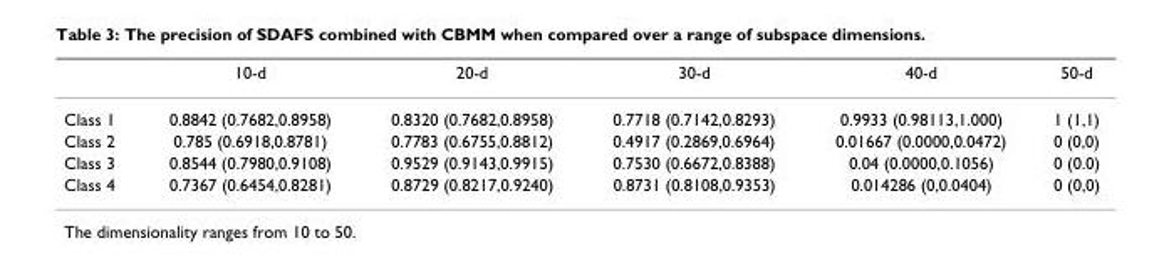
<table><thead><tr><td></td><td>10-d</td><td>20-d</td><td>30-d</td><td>40-d</td><td>50-d</td></tr></thead><tbody><tr><td>Class 1</td><td>0.8842 (0.7682,0.8958)</td><td>0.8320 (0.7682,0.8958)</td><td>0.7718 (0.7142,0.8293)</td><td>0.9933 (0.98113,1.000)</td><td>1 (1,1)</td></tr><tr><td>Class 2</td><td>0.785 (0.6918,0.8781)</td><td>0.7783 (0.6755,0.8812)</td><td>0.4917 (0.2869,0.6964)</td><td>0.01667 (0.0000,0.0472)</td><td>0 (0,0)</td></tr><tr><td>Class 3</td><td>0.8544 (0.7980,0.9108)</td><td>0.9529 (0.9143,0.9915)</td><td>0.7530 (0.6672,0.8388)</td><td>0.04 (0.0000,0.1056)</td><td>0 (0.0)</td></tr><tr><td>Class 4</td><td>0.7367 (0.6454,0.8281)</td><td>0.8729 (0.8217,0.9240)</td><td>0.8731 (0.8108,0.9353)</td><td>0.014286 (0,0.0404)</td><td>0 (0,0)</td></tr></tbody></table>